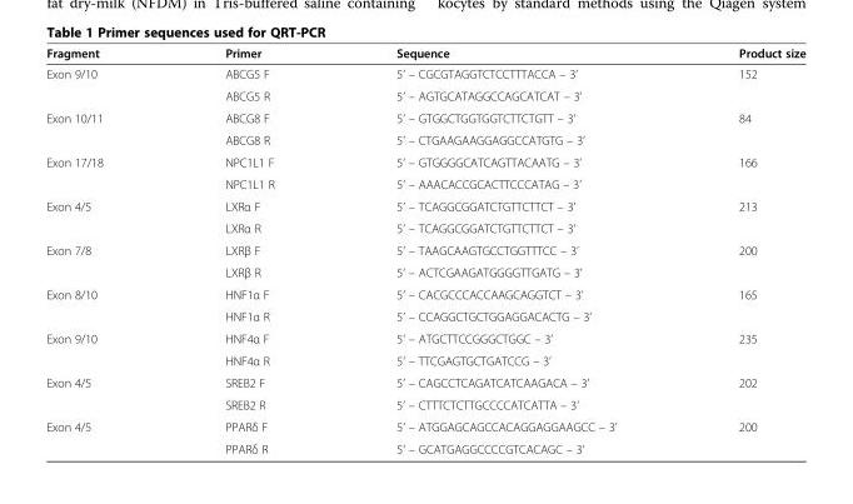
<table><thead><tr><td>Fragment</td><td>Primer</td><td>Sequence</td><td>Product size</td></tr></thead><tbody><tr><td rowspan="2">Exon 9/10</td><td>ABCG5 F</td><td>5’ – CGCGTAGGTCTCCTTTACCA – 3’</td><td>152</td></tr><tr><td>ABCG5 R</td><td>5’ – AGTGCATAGGCCAGCATCAT – 3’</td><td></td></tr><tr><td rowspan="2">Exon 10/11</td><td>ABCG8 F</td><td>5’ – GTGGCTGGTGGTCTTCTGTT – 3’</td><td>84</td></tr><tr><td>ABCG8 R</td><td>5’ – CTGAAGAAGGAGGCCATGTG – 3’</td><td></td></tr><tr><td rowspan="2">Exon 17/18</td><td>NPC1L1 F</td><td>5’ – GTGGGGCATCAGTTACAATG – 3’</td><td>166</td></tr><tr><td>NPC1L1 R</td><td>5’ – AAACACCGCACTTCCCATAG – 3’</td><td></td></tr><tr><td rowspan="2">Exon 4/5</td><td>LXRα F</td><td>5’ – TCAGGCGGATCTGTTCTTCT – 3’</td><td>213</td></tr><tr><td>LXRα R</td><td>5’ – TCAGGCGGATCTGTTCTTCT – 3’</td><td></td></tr><tr><td rowspan="2">Exon 7/8</td><td>LXRβ F</td><td>5’ – TAAGCAAGTGCCTGGTTTCC – 3’</td><td>200</td></tr><tr><td>LXRβ R</td><td>5’ – ACTCGAAGATGGGGTTGATG – 3’</td><td></td></tr><tr><td rowspan="2">Exon 8/10</td><td>HNF1α F</td><td>5’ – CACGCCCACCAAGCAGGTCT – 3’</td><td>165</td></tr><tr><td>HNF1α R</td><td>5’ – CCAGGCTGCTGGAGGACACTG – 3’</td><td></td></tr><tr><td rowspan="2">Exon 9/10</td><td>HNF4α F</td><td>5’ – ATGCTTCCGGGCTGGC – 3’</td><td>235</td></tr><tr><td>HNF4α R</td><td>5’ – TTCGAGTGCTGATCCG – 3’</td><td></td></tr><tr><td rowspan="2">Exon 4/5</td><td>SREB2 F</td><td>5’ – CAGCCTCAGATCATCAAGACA – 3’</td><td>202</td></tr><tr><td>SREB2 R</td><td>5’ – CTTTCTCTTGCCCCATCATTA – 3’</td><td></td></tr><tr><td rowspan="2">Exon 4/5</td><td>PPARδ F</td><td>5’ – ATGGAGCAGCCACAGGAGGAAGCC – 3’</td><td>200</td></tr><tr><td>PPARδ R</td><td>5’ – GCATGAGGCCCCGTCACAGC – 3’</td><td></td></tr></tbody></table>